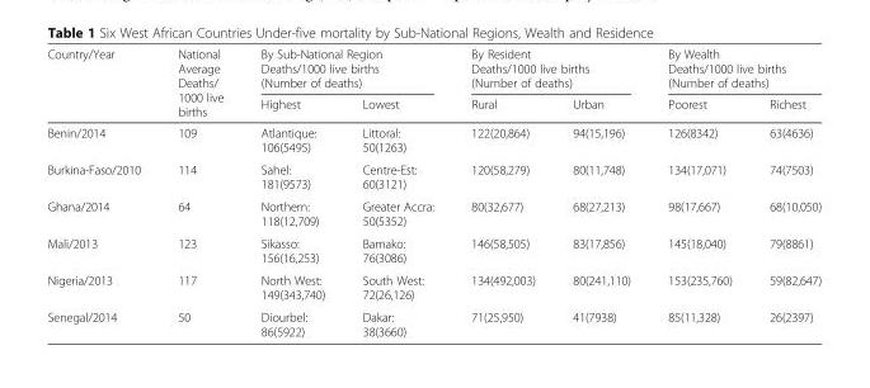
<table><thead><tr><td rowspan="2">Country/Year</td><td rowspan="2">National Average Deaths/ 1000 live births</td><td colspan="2">By Sub-National Region Deaths/1000 live births (Number of deaths)</td><td colspan="2">By Resident Deaths/1000 live births (Number of deaths)</td><td colspan="2">By Wealth Deaths/1000 live births (Number of deaths)</td></tr><tr><td>Highest</td><td>Lowest</td><td>Rural</td><td>Urban</td><td>Poorest</td><td>Richest</td></tr></thead><tbody><tr><td>Benin/2014</td><td>109</td><td>Atlantique: 106(5495)</td><td>Littoral: 50(1263)</td><td>122(20,864)</td><td>94(15,196)</td><td>126(8342)</td><td>63(4636)</td></tr><tr><td>Burkina-Faso/2010</td><td>114</td><td>Sahel: 181(9573)</td><td>Centre-Est: 60(3121)</td><td>120(58,279)</td><td>80(11,748)</td><td>134(17,071)</td><td>74(7503)</td></tr><tr><td>Ghana/2014</td><td>64</td><td>Northern: 118(12,709)</td><td>Greater Accra: 50(5352)</td><td>80(32,677)</td><td>68(27,213)</td><td>98(17,667)</td><td>68(10,050)</td></tr><tr><td>Mali/2013</td><td>123</td><td>Sikasso: 156(16,253)</td><td>Bamako: 76(3086)</td><td>146(58,505)</td><td>83(17,856)</td><td>145(18,040)</td><td>79(8861)</td></tr><tr><td>Nigeria/2013</td><td>117</td><td>North West: 149(343,740)</td><td>South West: 72(26,126)</td><td>134(492,003)</td><td>80(241,110)</td><td>153(235,760)</td><td>59(82,647)</td></tr><tr><td>Senegal/2014</td><td>50</td><td>Diourbel: 86(5922)</td><td>Dakar: 38(3660)</td><td>71(25,950)</td><td>41(7938)</td><td>85(11,328)</td><td>26(2397)</td></tr></tbody></table>